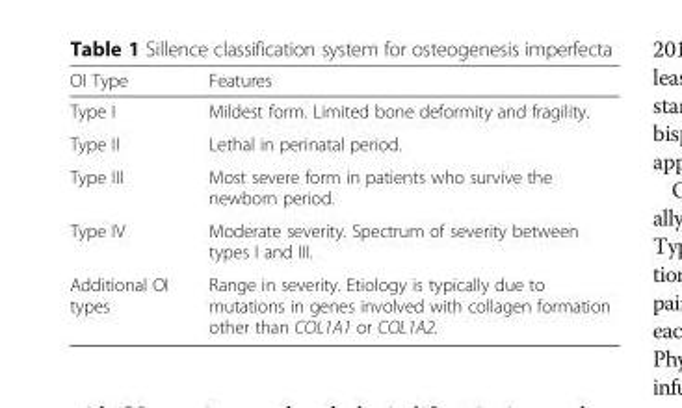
<table><thead><tr><td>OI Type</td><td>Features</td></tr></thead><tbody><tr><td>Type I</td><td>Mildest form. Limited bone deformity and fragility.</td></tr><tr><td>Type II</td><td>Lethal in perinatal period.</td></tr><tr><td>Type III</td><td>Most severe form in patients who survive the newborn period.</td></tr><tr><td>Type IV</td><td>Moderate severity. Spectrum of severity between types I and III.</td></tr><tr><td>Additional OI types</td><td>Range in severity. Etiology is typically due to mutations in genes involved with collagen formation other than COL1A1 or COL1A2.</td></tr></tbody></table>